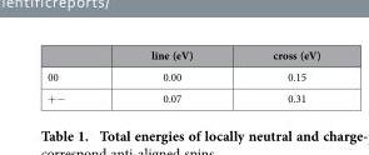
<table><thead><tr><td></td><td>line (eV)</td><td>cross (eV)</td></tr></thead><tbody><tr><td>00</td><td>0.00</td><td>0.15</td></tr><tr><td>+ −</td><td>0.07</td><td>0.31</td></tr></tbody></table>